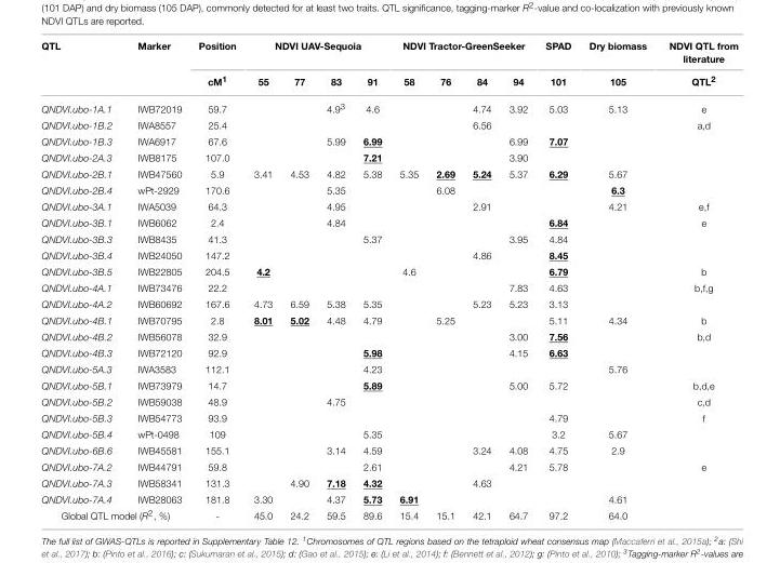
<table><thead><tr><td rowspan="2">QTL</td><td rowspan="2">Marker</td><td rowspan="2">Position cM<sup>1</sup></td><td colspan="4">NDVI UAV-Sequoia</td><td colspan="4">NDVI Tractor-GreenSeeker</td><td rowspan="2">SPAD 101</td><td rowspan="2">Dry biomass 105</td><td rowspan="2">NDVI QTL from literature QTL<sup>2</sup></td></tr><tr><td>55</td><td>77</td><td>83</td><td>91</td><td>58</td><td>76</td><td>84</td><td>94</td></tr></thead><tbody><tr><td>QNDVI.ubo-1A.1</td><td>IWB72019</td><td>59.7</td><td></td><td></td><td>4.9<sup>3</sup></td><td>4.6</td><td></td><td></td><td>4.74</td><td>3.92</td><td>5.03</td><td>5.13</td><td>e</td></tr><tr><td>QNDVI.ubo-1B.2</td><td>IWA8557</td><td>25.4</td><td></td><td></td><td></td><td></td><td></td><td></td><td>6.56</td><td></td><td></td><td></td><td>a,d</td></tr><tr><td>QNDVI.ubo-1B.3</td><td>IWA6917</td><td>67.6</td><td></td><td></td><td>5.99</td><td>6.99</td><td></td><td></td><td></td><td>6.99</td><td>7.07</td><td></td><td></td></tr><tr><td>QNDVI.ubo-2A.3</td><td>IWB8175</td><td>107.0</td><td></td><td></td><td></td><td>7.21</td><td></td><td></td><td></td><td>3.90</td><td></td><td></td><td></td></tr><tr><td>QNDVI.ubo-2B.1</td><td>IWB47560</td><td>5.9</td><td>3.41</td><td>4.53</td><td>4.82</td><td>5.38</td><td>5.35</td><td>2.69</td><td>5.24</td><td>5.37</td><td>6.29</td><td>5.67</td><td></td></tr><tr><td>QNDVI.ubo-2B.4</td><td>wPt-2929</td><td>170.6</td><td></td><td></td><td>5.35</td><td></td><td></td><td>6.08</td><td></td><td></td><td></td><td>6.3</td><td></td></tr><tr><td>QNDVI.ubo-3A.1</td><td>IWA5039</td><td>64.3</td><td></td><td></td><td>4.95</td><td></td><td></td><td></td><td>2.91</td><td></td><td></td><td>4.21</td><td>e,f</td></tr><tr><td>QNDVI.ubo-3B.1</td><td>IWB6062</td><td>2.4</td><td></td><td></td><td>4.84</td><td></td><td></td><td></td><td></td><td></td><td>6.84</td><td></td><td>e</td></tr><tr><td>QNDVI.ubo-3B.3</td><td>IWB8435</td><td>41.3</td><td></td><td></td><td></td><td>5.37</td><td></td><td></td><td></td><td>3.95</td><td>4.84</td><td></td><td></td></tr><tr><td>QNDVI.ubo-3B.4</td><td>IWB24050</td><td>147.2</td><td></td><td></td><td></td><td></td><td></td><td></td><td>4.86</td><td></td><td>8.45</td><td></td><td></td></tr><tr><td>QNDVI.ubo-3B.5</td><td>IWB22805</td><td>204.5</td><td>4.2</td><td></td><td></td><td></td><td>4.6</td><td></td><td></td><td></td><td>6.79</td><td></td><td>b</td></tr><tr><td>QNDVI.ubo-4A.1</td><td>IWB73476</td><td>22.2</td><td></td><td></td><td></td><td></td><td></td><td></td><td></td><td>7.83</td><td>4.63</td><td></td><td>b,f,g</td></tr><tr><td>QNDVI.ubo-4A.2</td><td>IWB60692</td><td>167.6</td><td>4.73</td><td>6.59</td><td>5.38</td><td>5.35</td><td></td><td></td><td>5.23</td><td>5.23</td><td>3.13</td><td></td><td></td></tr><tr><td>QNDVI.ubo-4B.1</td><td>IWB70795</td><td>2.8</td><td>8.01</td><td>5.02</td><td>4.48</td><td>4.79</td><td></td><td>5.25</td><td></td><td></td><td>5.11</td><td>4.34</td><td>b</td></tr><tr><td>QNDVI.ubo-4B.2</td><td>IWB56078</td><td>32.9</td><td></td><td></td><td></td><td></td><td></td><td></td><td></td><td>3.00</td><td>7.56</td><td></td><td>b,d</td></tr><tr><td>QNDVI.ubo-4B.3</td><td>IWB72120</td><td>92.9</td><td></td><td></td><td></td><td>5.98</td><td></td><td></td><td></td><td>4.15</td><td>6.63</td><td></td><td></td></tr><tr><td>QNDVI.ubo-5A.3</td><td>IWA3583</td><td>112.1</td><td></td><td></td><td></td><td>4.23</td><td></td><td></td><td></td><td></td><td></td><td>5.76</td><td></td></tr><tr><td>QNDVI.ubo-5B.1</td><td>IWB73979</td><td>14.7</td><td></td><td></td><td></td><td>5.89</td><td></td><td></td><td></td><td>5.00</td><td>5.72</td><td></td><td>b,d,e</td></tr><tr><td>QNDVI.ubo-5B.2</td><td>IWB59038</td><td>48.9</td><td></td><td></td><td>4.75</td><td></td><td></td><td></td><td></td><td></td><td></td><td></td><td>c,d</td></tr><tr><td>QNDVI.ubo-5B.3</td><td>IWB54773</td><td>93.9</td><td></td><td></td><td></td><td></td><td></td><td></td><td></td><td></td><td>4.79</td><td></td><td>f</td></tr><tr><td>QNDVI.ubo-5B.4</td><td>wPt-0498</td><td>109</td><td></td><td></td><td></td><td>5.35</td><td></td><td></td><td></td><td></td><td>3.2</td><td>5.67</td><td></td></tr><tr><td>QNDVI.ubo-6B.6</td><td>IWB45581</td><td>155.1</td><td></td><td></td><td>3.14</td><td>4.59</td><td></td><td></td><td>3.24</td><td>4.08</td><td>4.75</td><td>2.9</td><td></td></tr><tr><td>QNDVI.ubo-7A.2</td><td>IWB44791</td><td>59.8</td><td></td><td></td><td></td><td>2.61</td><td></td><td></td><td></td><td>4.21</td><td>5.78</td><td></td><td>e</td></tr><tr><td>QNDVI.ubo-7A.3</td><td>IWB58341</td><td>131.3</td><td></td><td>4.90</td><td>7.18</td><td>4.32</td><td></td><td></td><td>4.63</td><td></td><td></td><td></td><td></td></tr><tr><td>QNDVI.ubo-7A.4</td><td>IWB28063</td><td>181.8</td><td>3.30</td><td></td><td>4.37</td><td>5.73</td><td>6.91</td><td></td><td></td><td></td><td></td><td>4.61</td><td></td></tr><tr><td colspan="2">Global QTL model (R<sup>2</sup>, %)</td><td>-</td><td>45.0</td><td>24.2</td><td>59.5</td><td>89.6</td><td>15.4</td><td>15.1</td><td>42.1</td><td>64.7</td><td>97.2</td><td>64.0</td><td></td></tr></tbody></table>